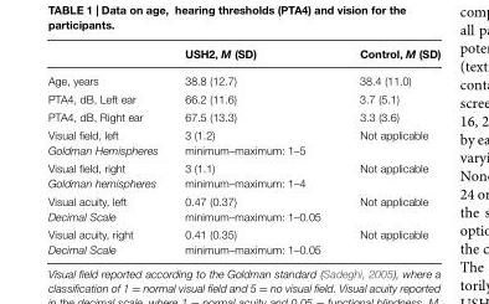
<table><thead><tr><td></td><td>USH2, M (SD)</td><td>Control, M (SD)</td></tr></thead><tbody><tr><td>Age, years</td><td>38.8 (12.7)</td><td>38.4 (11.0)</td></tr><tr><td>PTA4, dB, Left ear</td><td>66.2 (11.6)</td><td>3.7 (5.1)</td></tr><tr><td>PTA4, dB, Right ear</td><td>67.5 (13.3)</td><td>3.3 (3.6)</td></tr><tr><td>Visual field, left Goldman Hemispheres</td><td>3 (1.2) minimum–maximum: 1–5</td><td>Not applicable</td></tr><tr><td>Visual field, right Goldman hemispheres</td><td>3 (1.1) minimum–maximum: 1–4</td><td>Not applicable</td></tr><tr><td>Visual acuity, left Decimal Scale</td><td>0.47 (0.37) minimum–maximum: 1–0.05</td><td>Not applicable</td></tr><tr><td>Visual acuity, right Decimal Scale</td><td>0.41 (0.35) minimum–maximum: 1–0.05</td><td>Not applicable</td></tr></tbody></table>